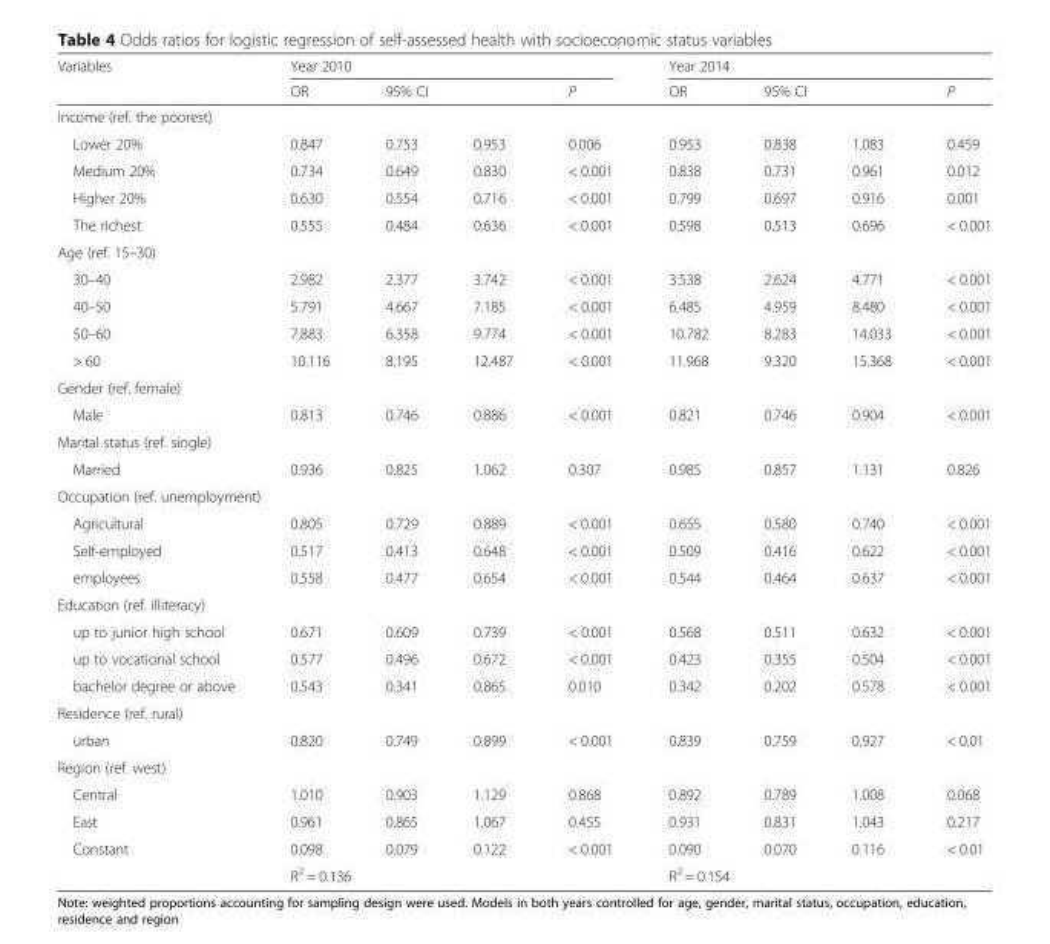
<table><thead><tr><td rowspan="2">Variables</td><td colspan="4">Year 2010</td><td colspan="4">Year 2014</td></tr><tr><td>OR</td><td colspan="2">95% CI</td><td>P</td><td>OR</td><td colspan="2">95% CI</td><td>P</td></tr><tr><td colspan="9">Income (ref. the poorest)</td></tr><tr><td>Lower 20%</td><td>0.847</td><td>0.753</td><td>0.953</td><td>0.006</td><td>0.953</td><td>0.838</td><td>1.083</td><td>0.459</td></tr></thead><tbody><tr><td>Medium 20%</td><td>0.734</td><td>0.649</td><td>0.830</td><td>&lt; 0.001</td><td>0.838</td><td>0.731</td><td>0.961</td><td>0.012</td></tr><tr><td>Higher 20%</td><td>0.630</td><td>0.554</td><td>0.716</td><td>&lt; 0.001</td><td>0.799</td><td>0.697</td><td>0.916</td><td>0.001</td></tr><tr><td>The richest</td><td>0.555</td><td>0.484</td><td>0.636</td><td>&lt; 0.001</td><td>0.598</td><td>0.513</td><td>0.696</td><td>&lt; 0.001</td></tr><tr><td colspan="9">Age (ref. 15–30)</td></tr><tr><td>30–40</td><td>2.982</td><td>2.377</td><td>3.742</td><td>&lt; 0.001</td><td>3.538</td><td>2.624</td><td>4.771</td><td>&lt; 0.001</td></tr><tr><td>40–50</td><td>5.791</td><td>4.667</td><td>7.185</td><td>&lt; 0.001</td><td>6.485</td><td>4.959</td><td>8.480</td><td>&lt; 0.001</td></tr><tr><td>50–60</td><td>7.883</td><td>6.358</td><td>9.774</td><td>&lt; 0.001</td><td>10.782</td><td>8.283</td><td>14.033</td><td>&lt; 0.001</td></tr><tr><td>&gt; 60</td><td>10.116</td><td>8.195</td><td>12.487</td><td>&lt; 0.001</td><td>11.968</td><td>9.320</td><td>15.368</td><td>&lt; 0.001</td></tr><tr><td colspan="9">Gender (ref. female)</td></tr><tr><td>Male</td><td>0.813</td><td>0.746</td><td>0.886</td><td>&lt; 0.001</td><td>0.821</td><td>0.746</td><td>0.904</td><td>&lt; 0.001</td></tr><tr><td colspan="9">Marital status (ref. single)</td></tr><tr><td>Married</td><td>0.936</td><td>0.825</td><td>1.062</td><td>0.307</td><td>0.985</td><td>0.857</td><td>1.131</td><td>0.826</td></tr><tr><td colspan="9">Occupation (ref. unemployment)</td></tr><tr><td>Agricultural</td><td>0.805</td><td>0.729</td><td>0.889</td><td>&lt; 0.001</td><td>0.655</td><td>0.580</td><td>0.740</td><td>&lt; 0.001</td></tr><tr><td>Self-employed</td><td>0.517</td><td>0.413</td><td>0.648</td><td>&lt; 0.001</td><td>0.509</td><td>0.416</td><td>0.622</td><td>&lt; 0.001</td></tr><tr><td>employees</td><td>0.558</td><td>0.477</td><td>0.654</td><td>&lt; 0.001</td><td>0.544</td><td>0.464</td><td>0.637</td><td>&lt; 0.001</td></tr><tr><td colspan="9">Education (ref. illiteracy)</td></tr><tr><td>up to junior high school</td><td>0.671</td><td>0.609</td><td>0.739</td><td>&lt; 0.001</td><td>0.568</td><td>0.511</td><td>0.632</td><td>&lt; 0.001</td></tr><tr><td>up to vocational school</td><td>0.577</td><td>0.496</td><td>0.672</td><td>&lt; 0.001</td><td>0.423</td><td>0.355</td><td>0.504</td><td>&lt; 0.001</td></tr><tr><td>bachelor degree or above</td><td>0.543</td><td>0.341</td><td>0.865</td><td>0.010</td><td>0.342</td><td>0.202</td><td>0.578</td><td>&lt; 0.001</td></tr><tr><td colspan="9">Residence (ref. rural)</td></tr><tr><td>urban</td><td>0.820</td><td>0.749</td><td>0.899</td><td>&lt; 0.001</td><td>0.839</td><td>0.759</td><td>0.927</td><td>&lt; 0.01</td></tr><tr><td colspan="9">Region (ref. west)</td></tr><tr><td>Central</td><td>1.010</td><td>0.903</td><td>1.129</td><td>0.868</td><td>0.892</td><td>0.789</td><td>1.008</td><td>0.068</td></tr><tr><td>East</td><td>0.961</td><td>0.865</td><td>1.067</td><td>0.455</td><td>0.931</td><td>0.831</td><td>1.043</td><td>0.217</td></tr><tr><td rowspan="2">Constant</td><td>0.098</td><td>0.079</td><td>0.122</td><td>&lt; 0.001</td><td>0.090</td><td>0.070</td><td>0.116</td><td>&lt; 0.01</td></tr><tr><td colspan="4">R<sup>2</sup> = 0.136</td><td colspan="4">R<sup>2</sup> = 0.154</td></tr></tbody></table>